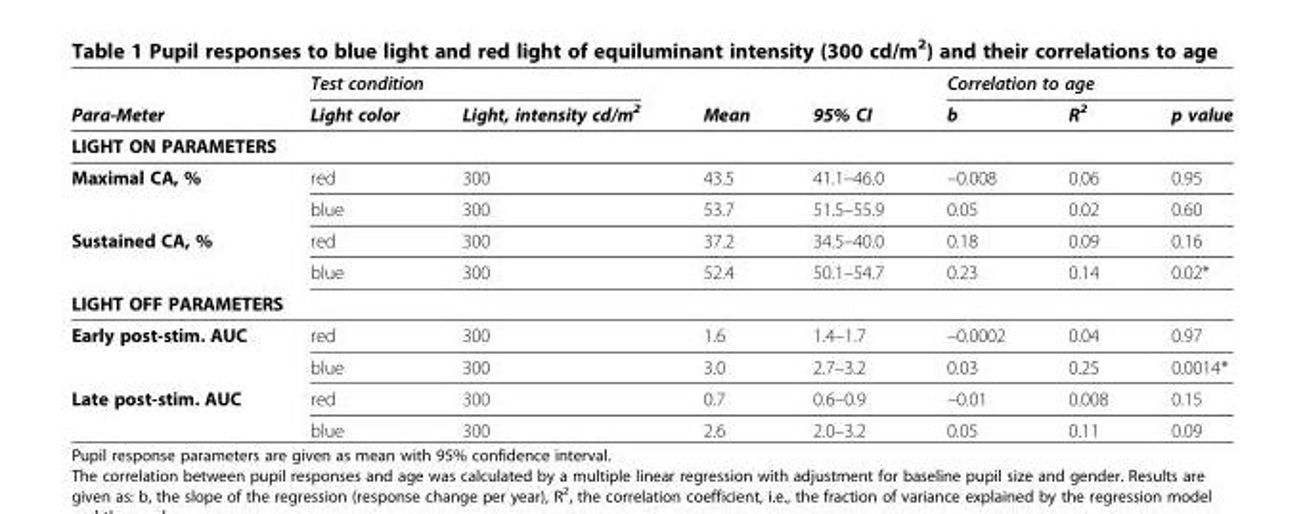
<table><thead><tr><td rowspan="2">Para-Meter</td><td colspan="2">Test condition</td><td rowspan="2">Mean</td><td rowspan="2">95% CI</td><td colspan="3">Correlation to age</td></tr><tr><td>Light color</td><td>Light, intensity cd/m<sup>2</sup></td><td>b</td><td>R<sup>2</sup></td><td>p value</td></tr></thead><tbody><tr><td colspan="8">LIGHT ON PARAMETERS</td></tr><tr><td rowspan="2">Maximal CA, %</td><td>red</td><td>300</td><td>43.5</td><td>41.1–46.0</td><td>–0.008</td><td>0.06</td><td>0.95</td></tr><tr><td>blue</td><td>300</td><td>53.7</td><td>51.5–55.9</td><td>0.05</td><td>0.02</td><td>0.60</td></tr><tr><td rowspan="2">Sustained CA, %</td><td>red</td><td>300</td><td>37.2</td><td>34.5–40.0</td><td>0.18</td><td>0.09</td><td>0.16</td></tr><tr><td>blue</td><td>300</td><td>52.4</td><td>50.1–54.7</td><td>0.23</td><td>0.14</td><td>0.02*</td></tr><tr><td colspan="8">LIGHT OFF PARAMETERS</td></tr><tr><td rowspan="2">Early post-stim. AUC</td><td>red</td><td>300</td><td>1.6</td><td>1.4–1.7</td><td>–0.0002</td><td>0.04</td><td>0.97</td></tr><tr><td>blue</td><td>300</td><td>3.0</td><td>2.7–3.2</td><td>0.03</td><td>0.25</td><td>0.0014*</td></tr><tr><td rowspan="2">Late post-stim. AUC</td><td>red</td><td>300</td><td>0.7</td><td>0.6–0.9</td><td>–0.01</td><td>0.008</td><td>0.15</td></tr><tr><td>blue</td><td>300</td><td>2.6</td><td>2.0–3.2</td><td>0.05</td><td>0.11</td><td>0.09</td></tr></tbody></table>